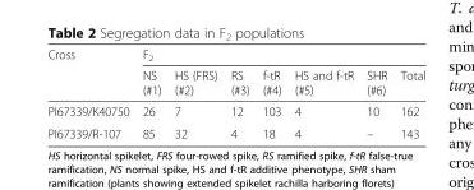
<table><thead><tr><td rowspan="2">Cross</td><td colspan="7">F<sub>2</sub></td></tr><tr><td>NS (#1)</td><td>HS (FRS) (#2)</td><td>RS (#3)</td><td>f-tR (#4)</td><td>HS and f-tR (#5)</td><td>SHR (#6)</td><td>Total</td></tr></thead><tbody><tr><td>PI67339/K40750</td><td>26</td><td>7</td><td>12</td><td>103</td><td>4</td><td>10</td><td>162</td></tr><tr><td>PI67339/R-107</td><td>85</td><td>32</td><td>4</td><td>18</td><td>4</td><td>–</td><td>143</td></tr></tbody></table>